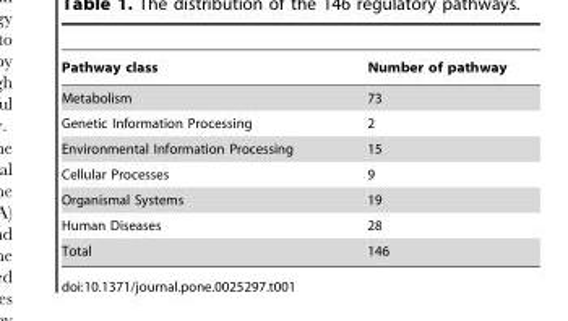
<table><thead><tr><td>Pathway class</td><td>Number of pathway</td></tr></thead><tbody><tr><td>Metabolism</td><td>73</td></tr><tr><td>Genetic Information Processing</td><td>2</td></tr><tr><td>Environmental Information Processing</td><td>15</td></tr><tr><td>Cellular Processes</td><td>9</td></tr><tr><td>Organismal Systems</td><td>19</td></tr><tr><td>Human Diseases</td><td>28</td></tr><tr><td>Total</td><td>146</td></tr></tbody></table>